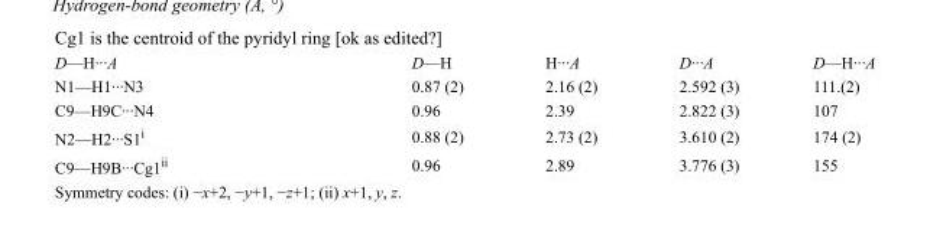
<table><tbody><tr><td>D—H···A</td><td>D—H</td><td>H···A</td><td>D···A</td><td>D—H···A</td></tr><tr><td>N1—H1···N3</td><td>0.87 (2)</td><td>2.16 (2)</td><td>2.592 (3)</td><td>111.(2)</td></tr><tr><td>C9—H9C···N4</td><td>0.96</td><td>2.39</td><td>2.822 (3)</td><td>107</td></tr><tr><td>N2—H2···S1<sup>i</sup></td><td>0.88 (2)</td><td>2.73 (2)</td><td>3.610 (2)</td><td>174 (2)</td></tr><tr><td>C9—H9B···Cg1<sup>ii</sup></td><td>0.96</td><td>2.89</td><td>3.776 (3)</td><td>155</td></tr></tbody></table>